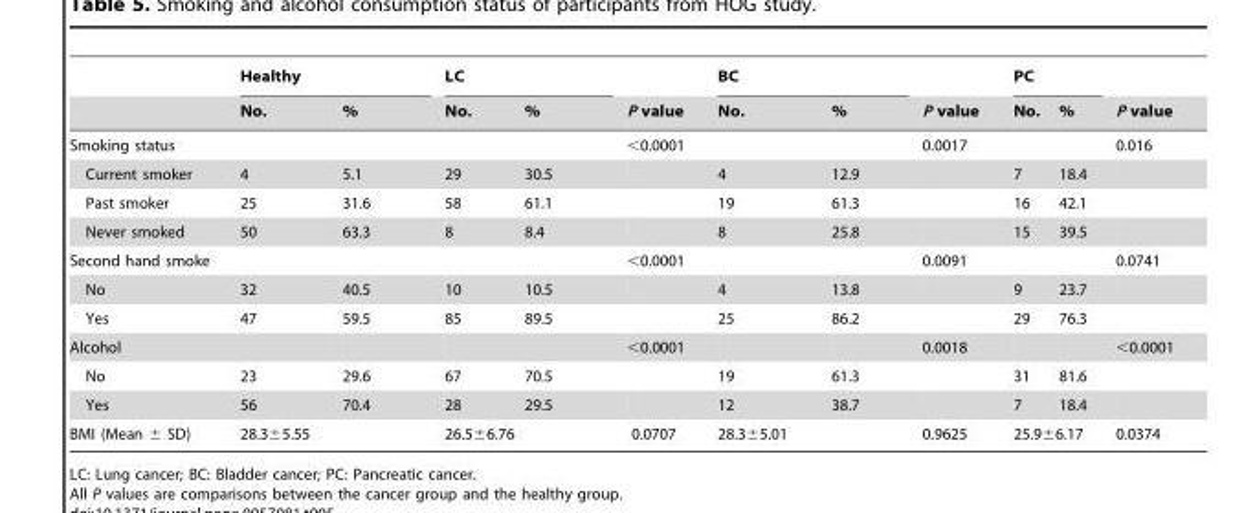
<table><thead><tr><td rowspan="2"></td><td colspan="2">Healthy</td><td colspan="2">LC</td><td rowspan="2">P value</td><td colspan="2">BC</td><td rowspan="2">P value</td><td colspan="2">PC</td><td rowspan="2">P value</td></tr><tr><td>No.</td><td>%</td><td>No.</td><td>%</td><td>No.</td><td>%</td><td>No.</td><td>%</td></tr></thead><tbody><tr><td>Smoking status</td><td></td><td></td><td></td><td></td><td>&lt;0.0001</td><td></td><td></td><td>0.0017</td><td></td><td></td><td>0.016</td></tr><tr><td>Current smoker</td><td>4</td><td>5.1</td><td>29</td><td>30.5</td><td></td><td>4</td><td>12.9</td><td></td><td>7</td><td>18.4</td><td></td></tr><tr><td>Past smoker</td><td>25</td><td>31.6</td><td>58</td><td>61.1</td><td></td><td>19</td><td>61.3</td><td></td><td>16</td><td>42.1</td><td></td></tr><tr><td>Never smoked</td><td>50</td><td>63.3</td><td>8</td><td>8.4</td><td></td><td>8</td><td>25.8</td><td></td><td>15</td><td>39.5</td><td></td></tr><tr><td>Second hand smoke</td><td></td><td></td><td></td><td></td><td>&lt;0.0001</td><td></td><td></td><td>0.0091</td><td></td><td></td><td>0.0741</td></tr><tr><td>No</td><td>32</td><td>40.5</td><td>10</td><td>10.5</td><td></td><td>4</td><td>13.8</td><td></td><td>9</td><td>23.7</td><td></td></tr><tr><td>Yes</td><td>47</td><td>59.5</td><td>85</td><td>89.5</td><td></td><td>25</td><td>86.2</td><td></td><td>29</td><td>76.3</td><td></td></tr><tr><td>Alcohol</td><td></td><td></td><td></td><td></td><td>&lt;0.0001</td><td></td><td></td><td>0.0018</td><td></td><td></td><td>&lt;0.0001</td></tr><tr><td>No</td><td>23</td><td>29.6</td><td>67</td><td>70.5</td><td></td><td>19</td><td>61.3</td><td></td><td>31</td><td>81.6</td><td></td></tr><tr><td>Yes</td><td>56</td><td>70.4</td><td>28</td><td>29.5</td><td></td><td>12</td><td>38.7</td><td></td><td>7</td><td>18.4</td><td></td></tr><tr><td>BMI (Mean ± SD)</td><td colspan="2">28.3±5.55</td><td colspan="2">26.5±6.76</td><td>0.0707</td><td colspan="2">28.3±5.01</td><td>0.9625</td><td colspan="2">25.9±6.17</td><td>0.0374</td></tr></tbody></table>